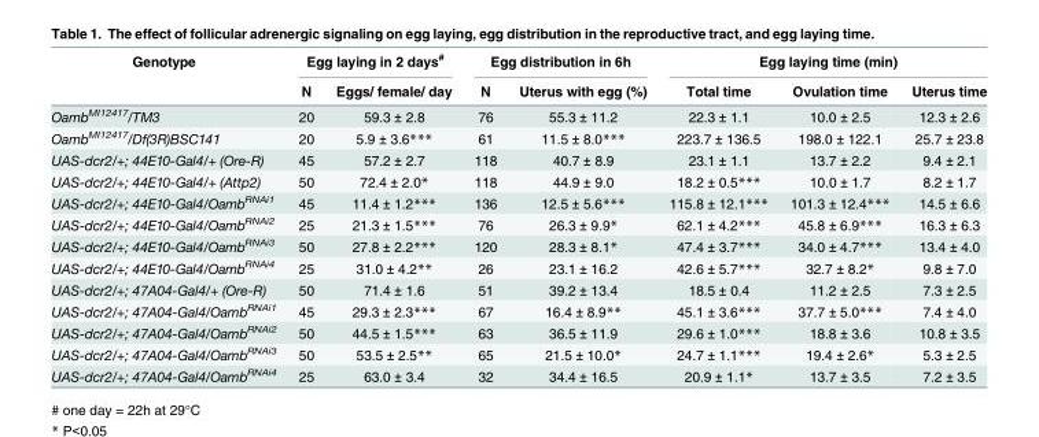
<table><thead><tr><td rowspan="2">Genotype</td><td colspan="2">Egg laying in 2 days<sup>#</sup></td><td colspan="2">Egg distribution in 6h</td><td colspan="3">Egg laying time (min)</td></tr><tr><td>N</td><td>Eggs/ female/ day</td><td>N</td><td>Uterus with egg (%)</td><td>Total time</td><td>Ovulation time</td><td>Uterus time</td></tr></thead><tbody><tr><td>Oamb<sup>MI12417</sup>/TM3</td><td>20</td><td>59.3 ± 2.8</td><td>76</td><td>55.3 ± 11.2</td><td>22.3 ± 1.1</td><td>10.0 ± 2.5</td><td>12.3 ± 2.6</td></tr><tr><td>Oamb<sup>MI12417</sup>/Df(3R)BSC141</td><td>20</td><td>5.9 ± 3.6***</td><td>61</td><td>11.5 ± 8.0***</td><td>223.7 ± 136.5</td><td>198.0 ± 122.1</td><td>25.7 ± 23.8</td></tr><tr><td>UAS-dcr2/+; 44E10-Gal4/+ (Ore-R)</td><td>45</td><td>57.2 ± 2.7</td><td>118</td><td>40.7 ± 8.9</td><td>23.1 ± 1.1</td><td>13.7 ± 2.2</td><td>9.4 ± 2.1</td></tr><tr><td>UAS-dcr2/+; 44E10-Gal4/+ (Attp2)</td><td>50</td><td>72.4 ± 2.0*</td><td>118</td><td>44.9 ± 9.0</td><td>18.2 ± 0.5***</td><td>10.0 ± 1.7</td><td>8.2 ± 1.7</td></tr><tr><td>UAS-dcr2/+; 44E10-Gal4/Oamb<sup>RNAi1</sup></td><td>45</td><td>11.4 ± 1.2***</td><td>136</td><td>12.5 ± 5.6***</td><td>115.8 ± 12.1***</td><td>101.3 ± 12.4***</td><td>14.5 ± 6.6</td></tr><tr><td>UAS-dcr2/+; 44E10-Gal4/Oamb<sup>RNAi2</sup></td><td>25</td><td>21.3 ± 1.5***</td><td>76</td><td>26.3 ± 9.9*</td><td>62.1 ± 4.2***</td><td>45.8 ± 6.9***</td><td>16.3 ± 6.3</td></tr><tr><td>UAS-dcr2/+; 44E10-Gal4/Oamb<sup>RNAi3</sup></td><td>50</td><td>27.8 ± 2.2***</td><td>120</td><td>28.3 ± 8.1*</td><td>47.4 ± 3.7***</td><td>34.0 ± 4.7***</td><td>13.4 ± 4.0</td></tr><tr><td>UAS-dcr2/+; 44E10-Gal4/Oamb<sup>RNAi4</sup></td><td>25</td><td>31.0 ± 4.2**</td><td>26</td><td>23.1 ± 16.2</td><td>42.6 ± 5.7***</td><td>32.7 ± 8.2*</td><td>9.8 ± 7.0</td></tr><tr><td>UAS-dcr2/+; 47A04-Gal4/+ (Ore-R)</td><td>50</td><td>71.4 ± 1.6</td><td>51</td><td>39.2 ± 13.4</td><td>18.5 ± 0.4</td><td>11.2 ± 2.5</td><td>7.3 ± 2.5</td></tr><tr><td>UAS-dcr2/+; 47A04-Gal4/Oamb<sup>RNAi1</sup></td><td>45</td><td>29.3 ± 2.3***</td><td>67</td><td>16.4 ± 8.9**</td><td>45.1 ± 3.6***</td><td>37.7 ± 5.0***</td><td>7.4 ± 4.0</td></tr><tr><td>UAS-dcr2/+; 47A04-Gal4/Oamb<sup>RNAi2</sup></td><td>50</td><td>44.5 ± 1.5***</td><td>63</td><td>36.5 ± 11.9</td><td>29.6 ± 1.0***</td><td>18.8 ± 3.6</td><td>10.8 ± 3.5</td></tr><tr><td>UAS-dcr2/+; 47A04-Gal4/Oamb<sup>RNAi3</sup></td><td>50</td><td>53.5 ± 2.5**</td><td>65</td><td>21.5 ± 10.0*</td><td>24.7 ± 1.1***</td><td>19.4 ± 2.6*</td><td>5.3 ± 2.5</td></tr><tr><td>UAS-dcr2/+; 47A04-Gal4/Oamb<sup>RNAi4</sup></td><td>25</td><td>63.0 ± 3.4</td><td>32</td><td>34.4 ± 16.5</td><td>20.9 ± 1.1*</td><td>13.7 ± 3.5</td><td>7.2 ± 3.5</td></tr></tbody></table>